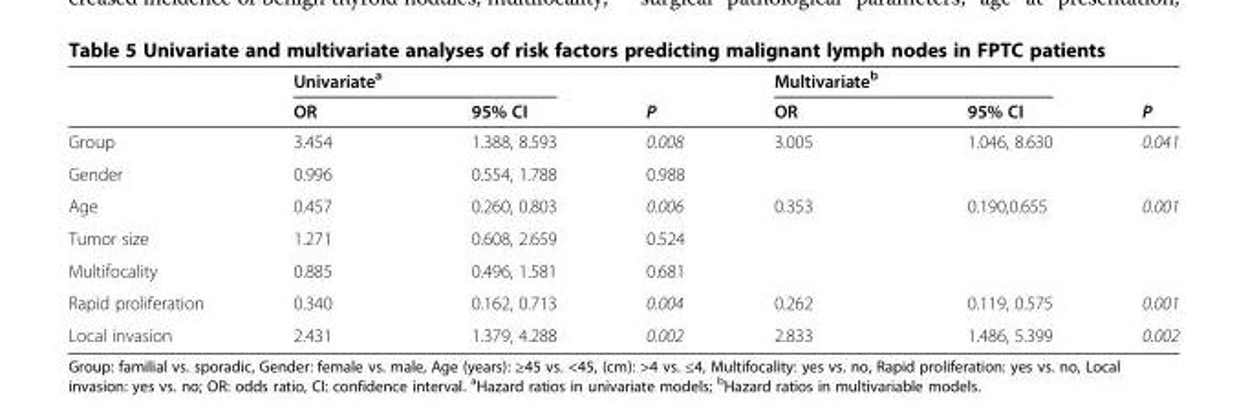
<table><thead><tr><td rowspan="2"></td><td rowspan="2">Univariate<sup>a</sup> OR</td><td rowspan="2">95% CI</td><td rowspan="2">P</td><td rowspan="2">Multivariate<sup>b</sup> OR</td><td rowspan="2">95% CI</td><td rowspan="2">P</td></tr><tr></tr></thead><tbody><tr><td>Group</td><td>3.454</td><td>1.388, 8.593</td><td>0.008</td><td>3.005</td><td>1.046, 8.630</td><td>0.041</td></tr><tr><td>Gender</td><td>0.996</td><td>0.554, 1.788</td><td>0.988</td><td></td><td></td><td></td></tr><tr><td>Age</td><td>0.457</td><td>0.260, 0.803</td><td>0.006</td><td>0.353</td><td>0.190,0.655</td><td>0.001</td></tr><tr><td>Tumor size</td><td>1.271</td><td>0.608, 2.659</td><td>0.524</td><td></td><td></td><td></td></tr><tr><td>Multifocality</td><td>0.885</td><td>0.496, 1.581</td><td>0.681</td><td></td><td></td><td></td></tr><tr><td>Rapid proliferation</td><td>0.340</td><td>0.162, 0.713</td><td>0.004</td><td>0.262</td><td>0.119, 0.575</td><td>0.001</td></tr><tr><td>Local invasion</td><td>2.431</td><td>1.379, 4.288</td><td>0.002</td><td>2.833</td><td>1.486, 5.399</td><td>0.002</td></tr></tbody></table>